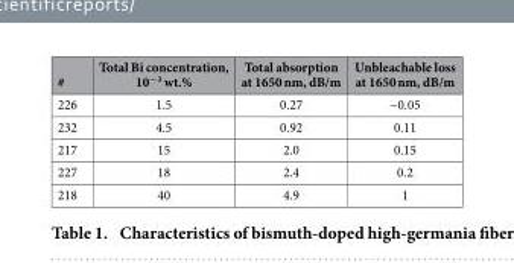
<table><thead><tr><td>#</td><td>Total Bi concentration, 10<sup>−3</sup> wt.%</td><td>Total absorption at 1650 nm, dB/m</td><td>Unbleachable loss at 1650 nm, dB/m</td></tr></thead><tbody><tr><td>226</td><td>1.5</td><td>0.27</td><td>~0.05</td></tr><tr><td>232</td><td>4.5</td><td>0.92</td><td>0.11</td></tr><tr><td>217</td><td>15</td><td>2.0</td><td>0.15</td></tr><tr><td>227</td><td>18</td><td>2.4</td><td>0.2</td></tr><tr><td>218</td><td>40</td><td>4.9</td><td>1</td></tr></tbody></table>